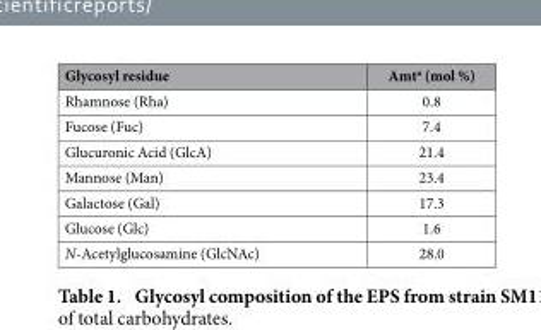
<table><thead><tr><td>Glycosyl residue</td><td>Amt<sup>a</sup> (mol %)</td></tr></thead><tbody><tr><td>Rhamnose (Rha)</td><td>0.8</td></tr><tr><td>Fucose (Fuc)</td><td>7.4</td></tr><tr><td>Glucuronic Acid (GlcA)</td><td>21.4</td></tr><tr><td>Mannose (Man)</td><td>23.4</td></tr><tr><td>Galactose (Gal)</td><td>17.3</td></tr><tr><td>Glucose (Glc)</td><td>1.6</td></tr><tr><td>N-Acetylglucosamine (GlcNAc)</td><td>28.0</td></tr></tbody></table>